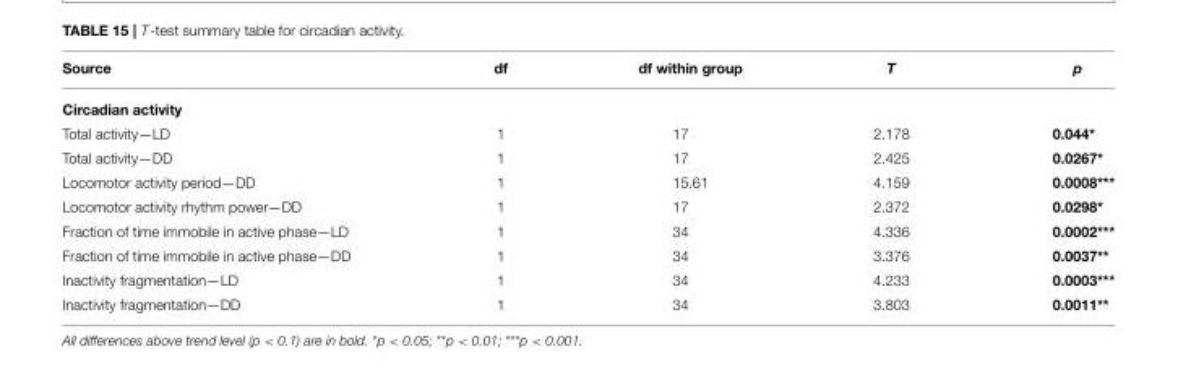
<table><thead><tr><td>Source</td><td>df</td><td>df within group</td><td>T</td><td>p</td></tr></thead><tbody><tr><td colspan="5">Circadian activity</td></tr><tr><td>Total activity—LD</td><td>1</td><td>17</td><td>2.178</td><td>0.044*</td></tr><tr><td>Total activity—DD</td><td>1</td><td>17</td><td>2.425</td><td>0.0267*</td></tr><tr><td>Locomotor activity period—DD</td><td>1</td><td>15.61</td><td>4.159</td><td>0.0008***</td></tr><tr><td>Locomotor activity rhythm power—DD</td><td>1</td><td>17</td><td>2.372</td><td>0.0298*</td></tr><tr><td>Fraction of time immobile in active phase—LD</td><td>1</td><td>34</td><td>4.336</td><td>0.0002***</td></tr><tr><td>Fraction of time immobile in active phase—DD</td><td>1</td><td>34</td><td>3.376</td><td>0.0037**</td></tr><tr><td>Inactivity fragmentation—LD</td><td>1</td><td>34</td><td>4.233</td><td>0.0003***</td></tr><tr><td>Inactivity fragmentation—DD</td><td>1</td><td>34</td><td>3.803</td><td>0.0011**</td></tr></tbody></table>